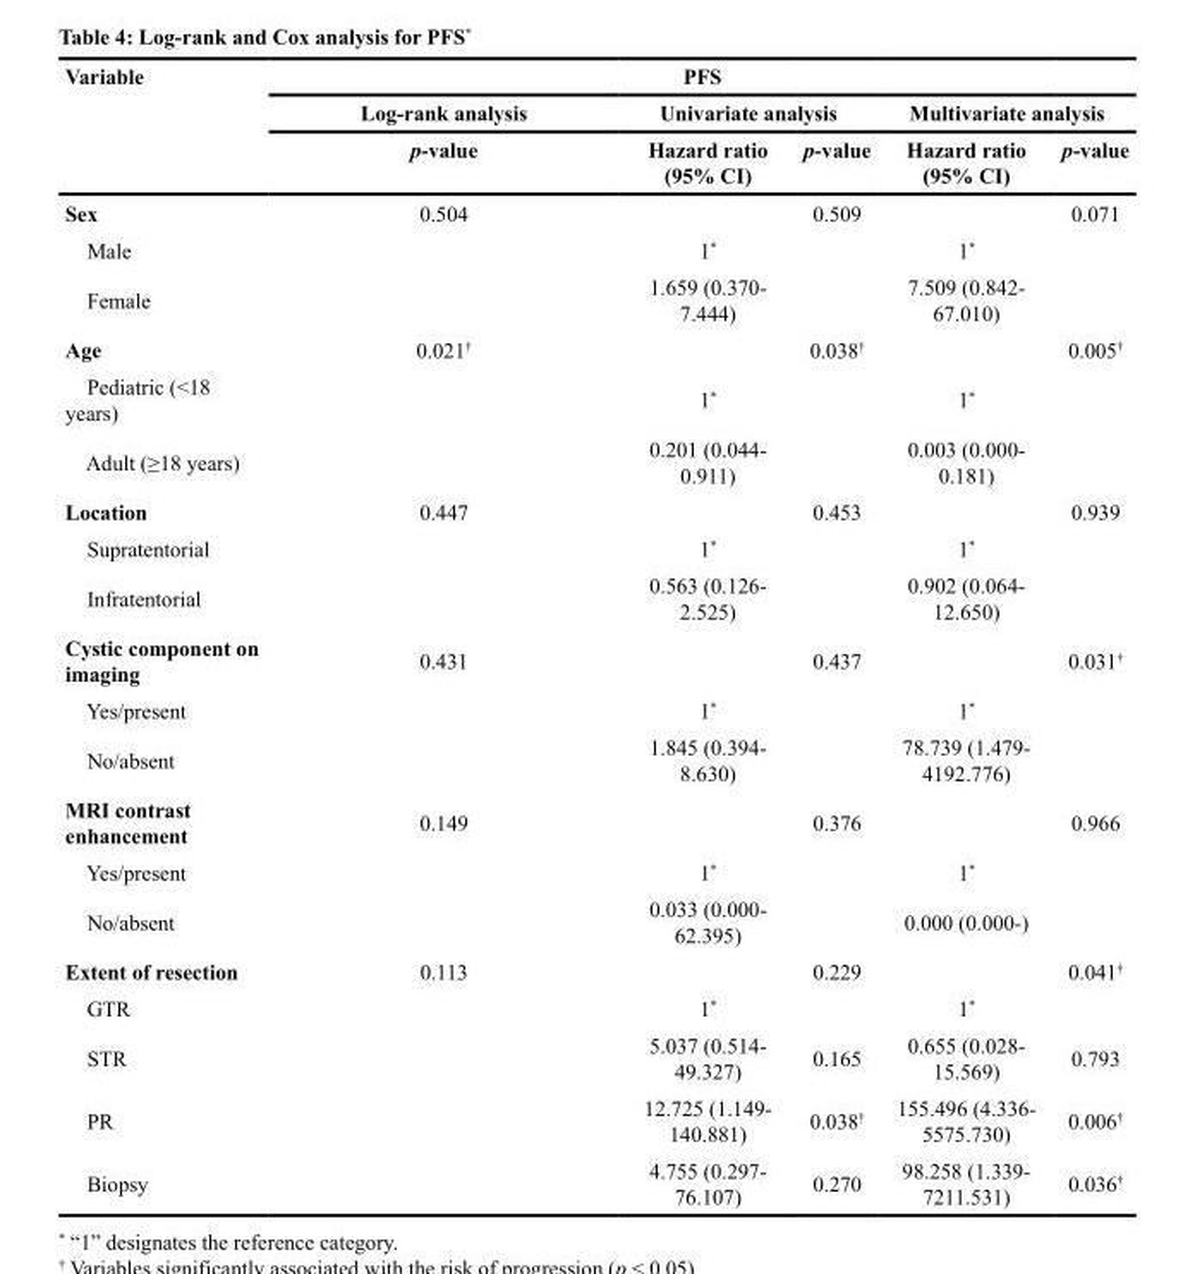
<table><thead><tr><td rowspan="3">Variable</td><td colspan="5">PFS</td></tr><tr><td rowspan="2">Log-rank analysis p-value</td><td colspan="2">Univariate analysis</td><td colspan="2">Multivariate analysis</td></tr><tr><td>Hazard ratio (95% CI)</td><td>p-value</td><td>Hazard ratio (95% CI)</td><td>p-value</td></tr></thead><tbody><tr><td>Sex</td><td>0.504</td><td></td><td>0.509</td><td></td><td>0.071</td></tr><tr><td>Male</td><td></td><td>1*</td><td></td><td>1*</td><td></td></tr><tr><td>Female</td><td></td><td>1.659 (0.370- 7.444)</td><td></td><td>7.509 (0.842- 67.010)</td><td></td></tr><tr><td>Age</td><td>0.021<sup>†</sup></td><td></td><td>0.038<sup>†</sup></td><td></td><td>0.005<sup>†</sup></td></tr><tr><td>Pediatric (&lt;18 years)</td><td></td><td>1*</td><td></td><td>1*</td><td></td></tr><tr><td>Adult (≥18 years)</td><td></td><td>0.201 (0.044- 0.911)</td><td></td><td>0.003 (0.000- 0.181)</td><td></td></tr><tr><td>Location</td><td>0.447</td><td></td><td>0.453</td><td></td><td>0.939</td></tr><tr><td>Supratentorial</td><td></td><td>1*</td><td></td><td>1*</td><td></td></tr><tr><td>Infratentorial</td><td></td><td>0.563 (0.126- 2.525)</td><td></td><td>0.902 (0.064- 12.650)</td><td></td></tr><tr><td>Cystic component on imaging</td><td>0.431</td><td></td><td>0.437</td><td></td><td>0.031<sup>†</sup></td></tr><tr><td>Yes/present</td><td></td><td>1*</td><td></td><td>1*</td><td></td></tr><tr><td>No/absent</td><td></td><td>1.845 (0.394- 8.630)</td><td></td><td>78.739 (1.479- 4192.776)</td><td></td></tr><tr><td>MRI contrast enhancement</td><td>0.149</td><td></td><td>0.376</td><td></td><td>0.966</td></tr><tr><td>Yes/present</td><td></td><td>1*</td><td></td><td>1*</td><td></td></tr><tr><td>No/absent</td><td></td><td>0.033 (0.000- 62.395)</td><td></td><td>0.000 (0.000-)</td><td></td></tr><tr><td>Extent of resection</td><td>0.113</td><td></td><td>0.229</td><td></td><td>0.041<sup>†</sup></td></tr><tr><td>GTR</td><td></td><td>1*</td><td></td><td>1*</td><td></td></tr><tr><td>STR</td><td></td><td>5.037 (0.514- 49.327)</td><td>0.165</td><td>0.655 (0.028- 15.569)</td><td>0.793</td></tr><tr><td>PR</td><td></td><td>12.725 (1.149- 140.881)</td><td>0.038<sup>†</sup></td><td>155.496 (4.336- 5575.730)</td><td>0.006<sup>†</sup></td></tr><tr><td>Biopsy</td><td></td><td>4.755 (0.297- 76.107)</td><td>0.270</td><td>98.258 (1.339- 7211.531)</td><td>0.036<sup>†</sup></td></tr></tbody></table>